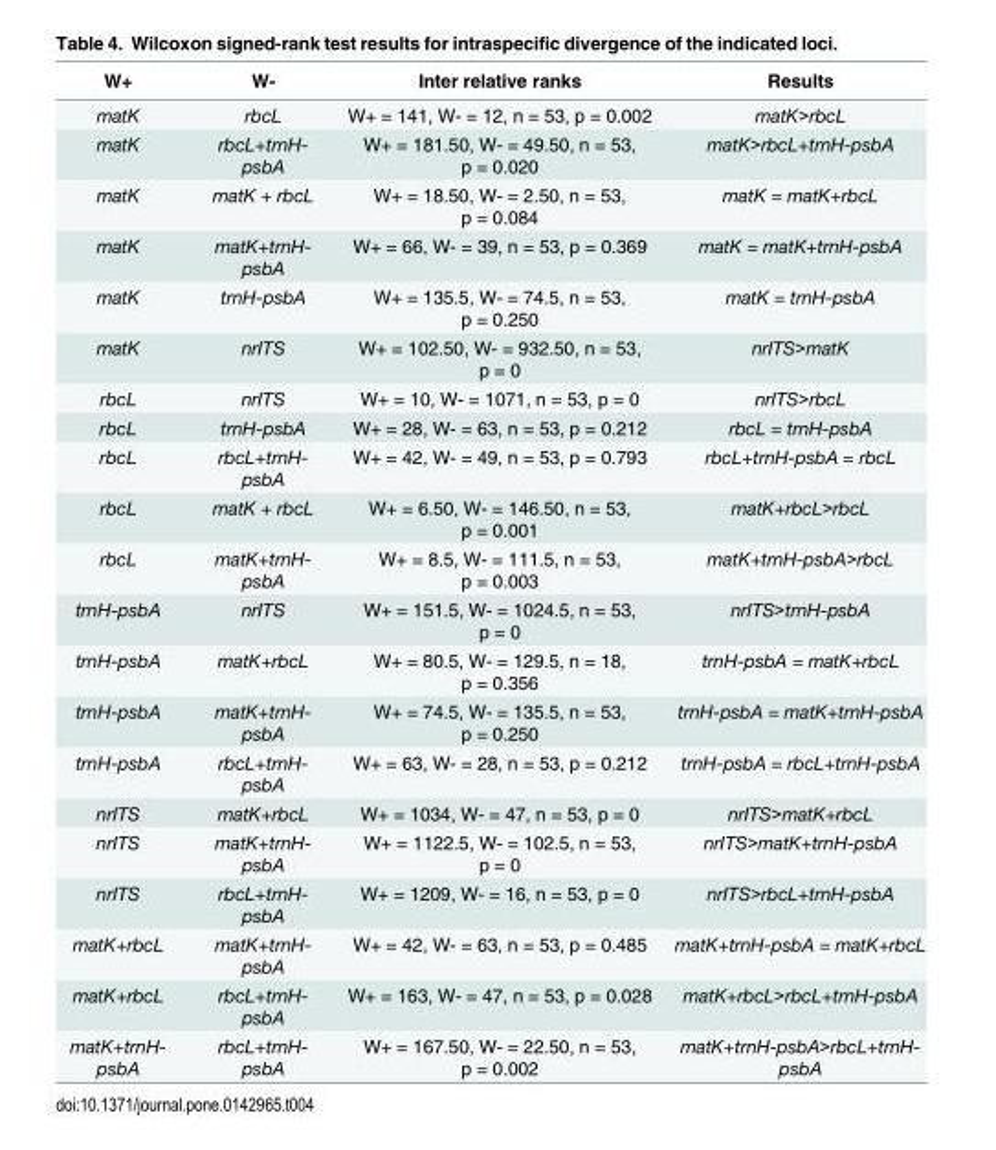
<table><thead><tr><td>W+</td><td>W-</td><td>Inter relative ranks</td><td>Results</td></tr></thead><tbody><tr><td>matK</td><td>rbcL</td><td>W+ = 141, W- = 12, n = 53, p = 0.002</td><td>matK&gt;rbcL</td></tr><tr><td>matK</td><td>rbcL+trnH- psbA</td><td>W+ = 181.50, W- = 49.50, n = 53, p = 0.020</td><td>matK&gt;rbcL+trnH-psbA</td></tr><tr><td>matK</td><td>matK + rbcL</td><td>W+ = 18.50, W- = 2.50, n = 53, p = 0.084</td><td>matK = matK+rbcL</td></tr><tr><td>matK</td><td>matK+trnH- psbA</td><td>W+ = 66, W- = 39, n = 53, p = 0.369</td><td>matK = matK+trnH-psbA</td></tr><tr><td>matK</td><td>trnH-psbA</td><td>W+ = 135.5, W- = 74.5, n = 53, p = 0.250</td><td>matK = trnH-psbA</td></tr><tr><td>matK</td><td>nrITS</td><td>W+ = 102.50, W- = 932.50, n = 53, p = 0</td><td>nrITS&gt;matK</td></tr><tr><td>rbcL</td><td>nrITS</td><td>W+ = 10, W- = 1071, n = 53, p = 0</td><td>nrITS&gt;rbcL</td></tr><tr><td>rbcL</td><td>trnH-psbA</td><td>W+ = 28, W- = 63, n = 53, p = 0.212</td><td>rbcL = trnH-psbA</td></tr><tr><td>rbcL</td><td>rbcL+trnH- psbA</td><td>W+ = 42, W- = 49, n = 53, p = 0.793</td><td>rbcL+trnH-psbA = rbcL</td></tr><tr><td>rbcL</td><td>matK + rbcL</td><td>W+ = 6.50, W- = 146.50, n = 53, p = 0.001</td><td>matK+rbcL&gt;rbcL</td></tr><tr><td>rbcL</td><td>matK+trnH- psbA</td><td>W+ = 8.5, W- = 111.5, n = 53, p = 0.003</td><td>matK+trnH-psbA&gt;rbcL</td></tr><tr><td>trnH-psbA</td><td>nrITS</td><td>W+ = 151.5, W- = 1024.5, n = 53, p = 0</td><td>nrITS&gt;trnH-psbA</td></tr><tr><td>trnH-psbA</td><td>matK+rbcL</td><td>W+ = 80.5, W- = 129.5, n = 18, p = 0.356</td><td>trnH-psbA = matK+rbcL</td></tr><tr><td>trnH-psbA</td><td>matK+trnH- psbA</td><td>W+ = 74.5, W- = 135.5, n = 53, p = 0.250</td><td>trnH-psbA = matK+trnH-psbA</td></tr><tr><td>trnH-psbA</td><td>rbcL+trnH- psbA</td><td>W+ = 63, W- = 28, n = 53, p = 0.212</td><td>trnH-psbA = rbcL+trnH-psbA</td></tr><tr><td>nrITS</td><td>matK+rbcL</td><td>W+ = 1034, W- = 47, n = 53, p = 0</td><td>nrITS&gt;matK+rbcL</td></tr><tr><td>nrITS</td><td>matK+trnH- psbA</td><td>W+ = 1122.5, W- = 102.5, n = 53, p = 0</td><td>nrITS&gt;matK+trnH-psbA</td></tr><tr><td>nrITS</td><td>rbcL+trnH- psbA</td><td>W+ = 1209, W- = 16, n = 53, p = 0</td><td>nrITS&gt;rbcL+trnH-psbA</td></tr><tr><td>matK+rbcL</td><td>matK+trnH- psbA</td><td>W+ = 42, W- = 63, n = 53, p = 0.485</td><td>matK+trnH-psbA = matK+rbcL</td></tr><tr><td>matK+rbcL</td><td>rbcL+trnH- psbA</td><td>W+ = 163, W- = 47, n = 53, p = 0.028</td><td>matK+rbcL&gt;rbcL+trnH-psbA</td></tr><tr><td>matK+trnH- psbA</td><td>rbcL+trnH- psbA</td><td>W+ = 167.50, W- = 22.50, n = 53, p = 0.002</td><td>matK+trnH-psbA&gt;rbcL+trnH- psbA</td></tr></tbody></table>